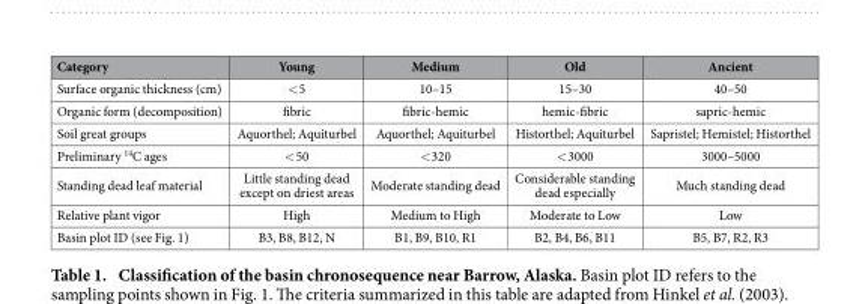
<table><thead><tr><td>Category</td><td>Young</td><td>Medium</td><td>Old</td><td>Ancient</td></tr></thead><tbody><tr><td>Surface organic thickness (cm)</td><td>&lt; 5</td><td>10–15</td><td>15–30</td><td>40–50</td></tr><tr><td>Organic form (decomposition)</td><td>fibric</td><td>fibric-hemic</td><td>hemic-fibric</td><td>sapric-hemic</td></tr><tr><td>Soil great groups</td><td>Aquorthel; Aquiturbel</td><td>Aquorthel; Aquiturbel</td><td>Historthel; Aquiturbel</td><td>Sapristel; Hemistel; Historthel</td></tr><tr><td>Preliminary <sup>14</sup>C ages</td><td>&lt; 50</td><td>&lt; 320</td><td>&lt; 3000</td><td>3000–5000</td></tr><tr><td>Standing dead leaf material</td><td>Little standing dead except on driest areas</td><td>Moderate standing dead</td><td>Considerable standing dead especially</td><td>Much standing dead</td></tr><tr><td>Relative plant vigor</td><td>High</td><td>Medium to High</td><td>Moderate to Low</td><td>Low</td></tr><tr><td>Basin plot ID (see Fig. 1)</td><td>B3, B8, B12, N</td><td>B1, B9, B10, R1</td><td>B2, B4, B6, B11</td><td>B5, B7, R2, R3</td></tr></tbody></table>